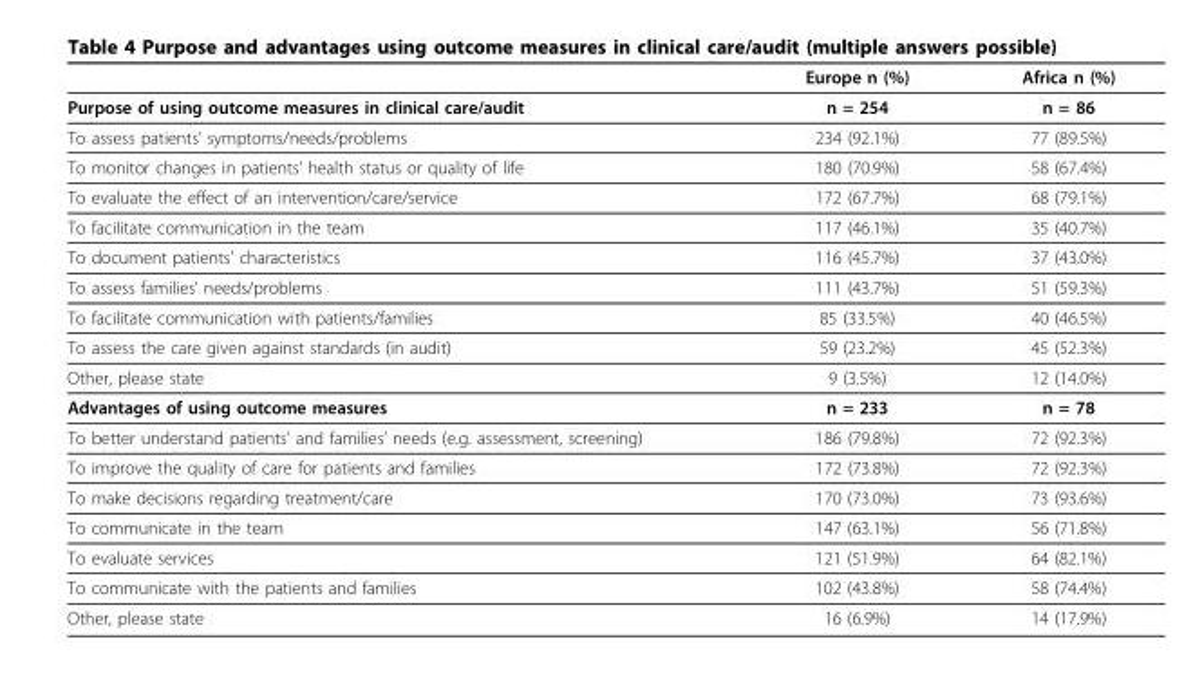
<table><thead><tr><td></td><td>Europe n (%)</td><td>Africa n (%)</td></tr></thead><tbody><tr><td>Purpose of using outcome measures in clinical care/audit</td><td>n = 254</td><td>n = 86</td></tr><tr><td>To assess patients’ symptoms/needs/problems</td><td>234 (92.1%)</td><td>77 (89.5%)</td></tr><tr><td>To monitor changes in patients’ health status or quality of life</td><td>180 (70.9%)</td><td>58 (67.4%)</td></tr><tr><td>To evaluate the effect of an intervention/care/service</td><td>172 (67.7%)</td><td>68 (79.1%)</td></tr><tr><td>To facilitate communication in the team</td><td>117 (46.1%)</td><td>35 (40.7%)</td></tr><tr><td>To document patients’ characteristics</td><td>116 (45.7%)</td><td>37 (43.0%)</td></tr><tr><td>To assess families’ needs/problems</td><td>111 (43.7%)</td><td>51 (59.3%)</td></tr><tr><td>To facilitate communication with patients/families</td><td>85 (33.5%)</td><td>40 (46.5%)</td></tr><tr><td>To assess the care given against standards (in audit)</td><td>59 (23.2%)</td><td>45 (52.3%)</td></tr><tr><td>Other, please state</td><td>9 (3.5%)</td><td>12 (14.0%)</td></tr><tr><td>Advantages of using outcome measures</td><td>n = 233</td><td>n = 78</td></tr><tr><td>To better understand patients’ and families’ needs (e.g. assessment, screening)</td><td>186 (79.8%)</td><td>72 (92.3%)</td></tr><tr><td>To improve the quality of care for patients and families</td><td>172 (73.8%)</td><td>72 (92.3%)</td></tr><tr><td>To make decisions regarding treatment/care</td><td>170 (73.0%)</td><td>73 (93.6%)</td></tr><tr><td>To communicate in the team</td><td>147 (63.1%)</td><td>56 (71.8%)</td></tr><tr><td>To evaluate services</td><td>121 (51.9%)</td><td>64 (82.1%)</td></tr><tr><td>To communicate with the patients and families</td><td>102 (43.8%)</td><td>58 (74.4%)</td></tr><tr><td>Other, please state</td><td>16 (6.9%)</td><td>14 (17.9%)</td></tr></tbody></table>